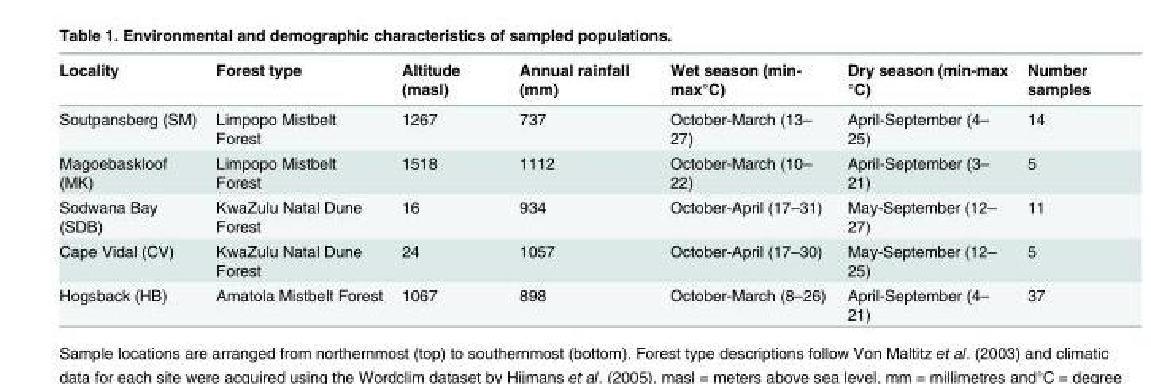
<table><thead><tr><td>Locality</td><td>Forest type</td><td>Altitude (masl)</td><td>Annual rainfall (mm)</td><td>Wet season (min- max°C)</td><td>Dry season (min-max °C)</td><td>Number samples</td></tr></thead><tbody><tr><td>Soutpansberg (SM)</td><td>Limpopo Mistbelt Forest</td><td>1267</td><td>737</td><td>October-March (13– 27)</td><td>April-September (4– 25)</td><td>14</td></tr><tr><td>Magoebaskloof (MK)</td><td>Limpopo Mistbelt Forest</td><td>1518</td><td>1112</td><td>October-March (10– 22)</td><td>April-September (3– 21)</td><td>5</td></tr><tr><td>Sodwana Bay (SDB)</td><td>KwaZulu Natal Dune Forest</td><td>16</td><td>934</td><td>October-April (17–31)</td><td>May-September (12– 27)</td><td>11</td></tr><tr><td>Cape Vidal (CV)</td><td>KwaZulu Natal Dune Forest</td><td>24</td><td>1057</td><td>October-April (17–30)</td><td>May-September (12– 25)</td><td>5</td></tr><tr><td>Hogsback (HB)</td><td>Amatola Mistbelt Forest</td><td>1067</td><td>898</td><td>October-March (8–26)</td><td>April-September (4– 21)</td><td>37</td></tr></tbody></table>